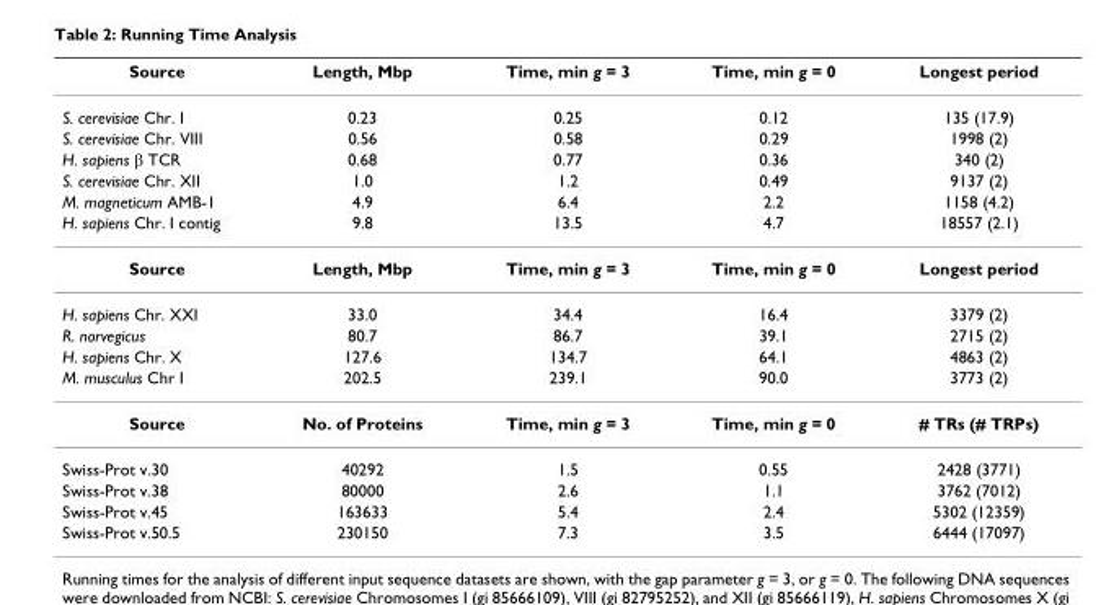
<table><thead><tr><td>Source</td><td>Length, Mbp</td><td>Time, min g = 3</td><td>Time, min g = 0</td><td>Longest period</td></tr></thead><tbody><tr><td>S. cerevisiae Chr. I</td><td>0.23</td><td>0.25</td><td>0.12</td><td>135 (17.9)</td></tr><tr><td>S. cerevisiae Chr. VIII</td><td>0.56</td><td>0.58</td><td>0.29</td><td>1998 (2)</td></tr><tr><td>H. sapiens β TCR</td><td>0.68</td><td>0.77</td><td>0.36</td><td>340 (2)</td></tr><tr><td>S. cerevisiae Chr. XII</td><td>1.0</td><td>1.2</td><td>0.49</td><td>9137 (2)</td></tr><tr><td>M. magneticum AMB-1</td><td>4.9</td><td>6.4</td><td>2.2</td><td>1158 (4.2)</td></tr><tr><td>H. sapiens Chr. I contig</td><td>9.8</td><td>13.5</td><td>4.7</td><td>18557 (2.1)</td></tr><tr><td>Source</td><td>Length, Mbp</td><td>Time, min g = 3</td><td>Time, min g = 0</td><td>Longest period</td></tr><tr><td>H. sapiens Chr. XXI</td><td>33.0</td><td>34.4</td><td>16.4</td><td>3379 (2)</td></tr><tr><td>R. norvegicus</td><td>80.7</td><td>86.7</td><td>39.1</td><td>2715 (2)</td></tr><tr><td>H. sapiens Chr. X</td><td>127.6</td><td>134.7</td><td>64.1</td><td>4863 (2)</td></tr><tr><td>M. musculus Chr I</td><td>202.5</td><td>239.1</td><td>90.0</td><td>3773 (2)</td></tr><tr><td>Source</td><td>No. of Proteins</td><td>Time, min g = 3</td><td>Time, min g = 0</td><td># TRs (# TRPs)</td></tr><tr><td>Swiss-Prot v.30</td><td>40292</td><td>1.5</td><td>0.55</td><td>2428 (3771)</td></tr><tr><td>Swiss-Prot v.38</td><td>80000</td><td>2.6</td><td>1.1</td><td>3762 (7012)</td></tr><tr><td>Swiss-Prot v.45</td><td>163633</td><td>5.4</td><td>2.4</td><td>5302 (12359)</td></tr><tr><td>Swiss-Prot v.50.5</td><td>230150</td><td>7.3</td><td>3.5</td><td>6444 (17097)</td></tr></tbody></table>